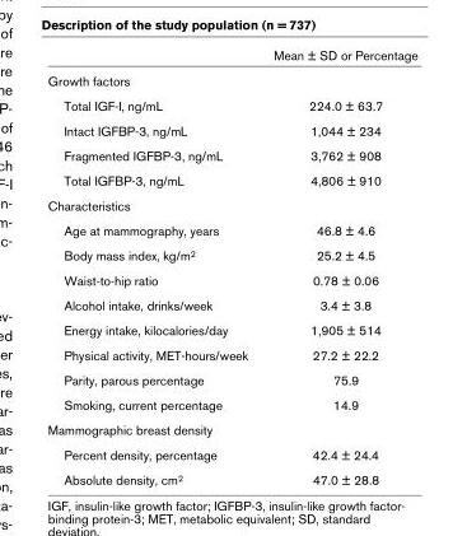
<table><thead><tr><td></td><td>Mean ± SD or Percentage</td></tr></thead><tbody><tr><td colspan="2">Growth factors</td></tr><tr><td>Total IGF-I, ng/mL</td><td>224.0 ± 63.7</td></tr><tr><td>Intact IGFBP-3, ng/mL</td><td>1,044 ± 234</td></tr><tr><td>Fragmented IGFBP-3, ng/mL</td><td>3,762 ± 908</td></tr><tr><td>Total IGFBP-3, ng/mL</td><td>4,806 ± 910</td></tr><tr><td colspan="2">Characteristics</td></tr><tr><td>Age at mammography, years</td><td>46.8 ± 4.6</td></tr><tr><td>Body mass index, kg/m<sup>2</sup></td><td>25.2 ± 4.5</td></tr><tr><td>Waist-to-hip ratio</td><td>0.78 ± 0.06</td></tr><tr><td>Alcohol intake, drinks/week</td><td>3.4 ± 3.8</td></tr><tr><td>Energy intake, kilocalories/day</td><td>1,905 ± 514</td></tr><tr><td>Physical activity, MET-hours/week</td><td>27.2 ± 22.2</td></tr><tr><td>Parity, parous percentage</td><td>75.9</td></tr><tr><td>Smoking, current percentage</td><td>14.9</td></tr><tr><td colspan="2">Mammographic breast density</td></tr><tr><td>Percent density, percentage</td><td>42.4 ± 24.4</td></tr><tr><td>Absolute density, cm<sup>2</sup></td><td>47.0 ± 28.8</td></tr></tbody></table>